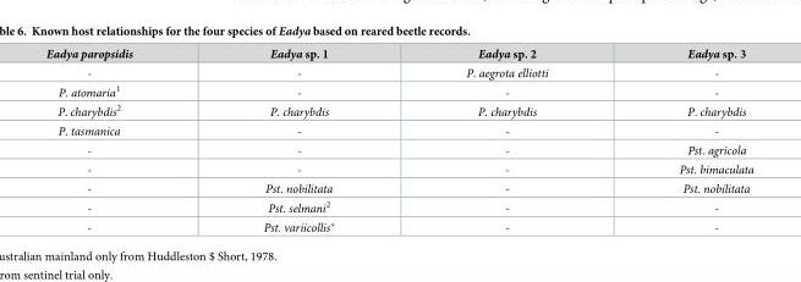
<table><thead><tr><td>Eadya paropsidis</td><td>Eadya sp. 1</td><td>Eadya sp. 2</td><td>Eadya sp. 3</td></tr></thead><tbody><tr><td>-</td><td>-</td><td>P. aegrota elliotti</td><td>-</td></tr><tr><td>P. atomaria<sup>1</sup></td><td>-</td><td>-</td><td>-</td></tr><tr><td>P. charybdis<sup>2</sup></td><td>P. charybdis</td><td>P. charybdis</td><td>P. charybdis</td></tr><tr><td>P. tasmanica</td><td>-</td><td>-</td><td>-</td></tr><tr><td>-</td><td>-</td><td>-</td><td>Pst. agricola</td></tr><tr><td>-</td><td>-</td><td>-</td><td>Pst. bimaculata</td></tr><tr><td>-</td><td>Pst. nobilitata</td><td>-</td><td>Pst. nobilitata</td></tr><tr><td>-</td><td>Pst. selmani<sup>2</sup></td><td>-</td><td>-</td></tr><tr><td>-</td><td>Pst. variicollis*</td><td>-</td><td>-</td></tr></tbody></table>